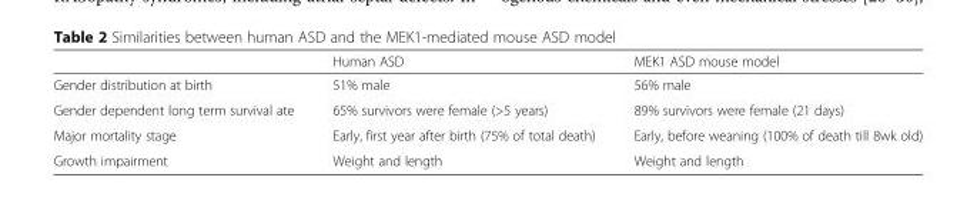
<table><thead><tr><td></td><td>Human ASD</td><td>MEK1 ASD mouse model</td></tr></thead><tbody><tr><td>Gender distribution at birth</td><td>51% male</td><td>56% male</td></tr><tr><td>Gender dependent long term survival ate</td><td>65% survivors were female (&gt;5 years)</td><td>89% survivors were female (21 days)</td></tr><tr><td>Major mortality stage</td><td>Early, first year after birth (75% of total death)</td><td>Early, before weaning (100% of death till 8wk old)</td></tr><tr><td>Growth impairment</td><td>Weight and length</td><td>Weight and length</td></tr></tbody></table>